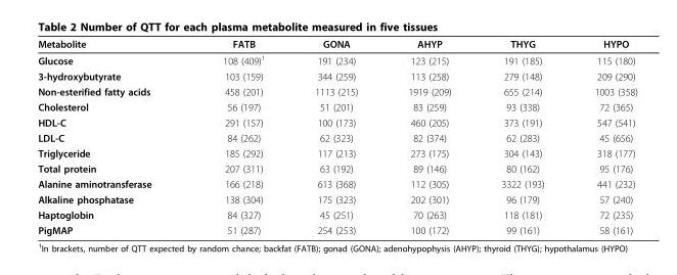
<table><thead><tr><td>Metabolite</td><td>FATB</td><td>GONA</td><td>AHYP</td><td>THYG</td><td>HYPO</td></tr></thead><tbody><tr><td>Glucose</td><td>108 (409)<sup>1</sup></td><td>191 (234)</td><td>123 (215)</td><td>191 (185)</td><td>115 (180)</td></tr><tr><td>3-hydroxybutyrate</td><td>103 (159)</td><td>344 (259)</td><td>113 (258)</td><td>279 (148)</td><td>209 (290)</td></tr><tr><td>Non-esterified fatty acids</td><td>458 (201)</td><td>1113 (215)</td><td>1919 (209)</td><td>655 (214)</td><td>1003 (358)</td></tr><tr><td>Cholesterol</td><td>56 (197)</td><td>51 (201)</td><td>83 (259)</td><td>93 (338)</td><td>72 (365)</td></tr><tr><td>HDL-C</td><td>291 (157)</td><td>100 (173)</td><td>460 (205)</td><td>373 (191)</td><td>547 (541)</td></tr><tr><td>LDL-C</td><td>84 (262)</td><td>62 (323)</td><td>82 (374)</td><td>62 (283)</td><td>45 (656)</td></tr><tr><td>Triglyceride</td><td>185 (292)</td><td>117 (213)</td><td>273 (175)</td><td>304 (143)</td><td>318 (177)</td></tr><tr><td>Total protein</td><td>207 (311)</td><td>63 (192)</td><td>89 (146)</td><td>80 (162)</td><td>95 (176)</td></tr><tr><td>Alanine aminotransferase</td><td>166 (218)</td><td>613 (368)</td><td>112 (305)</td><td>3322 (193)</td><td>441 (232)</td></tr><tr><td>Alkaline phosphatase</td><td>138 (304)</td><td>175 (323)</td><td>202 (301)</td><td>96 (179)</td><td>57 (240)</td></tr><tr><td>Haptoglobin</td><td>84 (327)</td><td>45 (251)</td><td>70 (263)</td><td>118 (181)</td><td>72 (235)</td></tr><tr><td>PigMAP</td><td>51 (287)</td><td>254 (253)</td><td>100 (172)</td><td>99 (161)</td><td>58 (161)</td></tr></tbody></table>